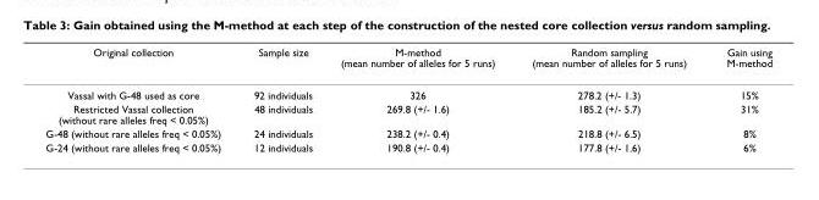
<table><thead><tr><td>Original collection</td><td>Sample size</td><td>M-method (mean number of alleles for 5 runs)</td><td>Random sampling (mean number of alleles for 5 runs)</td><td>Gain using M-method</td></tr></thead><tbody><tr><td>Vassal with G-48 used as core</td><td>92 individuals</td><td>326</td><td>278.2 (+/- 1.3)</td><td>15%</td></tr><tr><td>Restricted Vassal collection (without rare alleles freq &lt; 0.05%)</td><td>48 individuals</td><td>269.8 (+/- 1.6)</td><td>185.2 (+/- 5.7)</td><td>31%</td></tr><tr><td>G-48 (without rare alleles freq &lt; 0.05%)</td><td>24 individuals</td><td>238.2 (+/- 0.4)</td><td>218.8 (+/- 6.5)</td><td>8%</td></tr><tr><td>G-24 (without rare alleles freq &lt; 0.05%)</td><td>12 individuals</td><td>190.8 (+/- 0.4)</td><td>177.8 (+/- 1.6)</td><td>6%</td></tr></tbody></table>